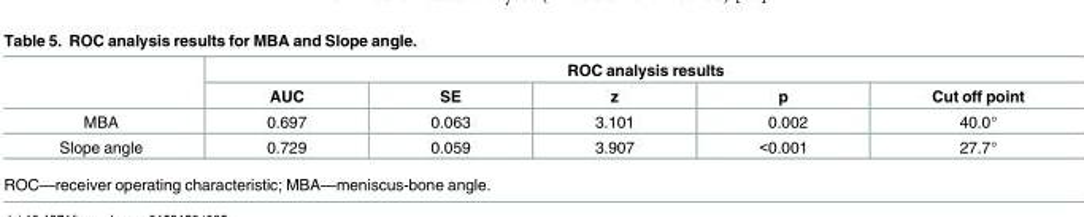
<table><thead><tr><td rowspan="2"></td><td colspan="5">ROC analysis results</td></tr><tr><td>AUC</td><td>SE</td><td>z</td><td>p</td><td>Cut off point</td></tr></thead><tbody><tr><td>MBA</td><td>0.697</td><td>0.063</td><td>3.101</td><td>0.002</td><td>40.0°</td></tr><tr><td>Slope angle</td><td>0.729</td><td>0.059</td><td>3.907</td><td>&lt;0.001</td><td>27.7°</td></tr></tbody></table>